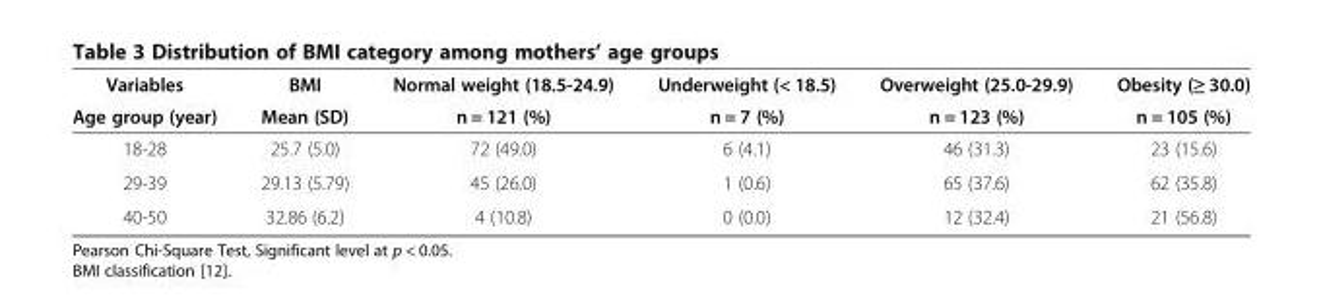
<table><thead><tr><td rowspan="2">Variables Age group (year)</td><td rowspan="2">BMI Mean (SD)</td><td rowspan="2">Normal weight (18.5-24.9) n = 121 (%)</td><td rowspan="2">Underweight (&lt; 18.5) n = 7 (%)</td><td rowspan="2">Overweight (25.0-29.9) n = 123 (%)</td><td rowspan="2">Obesity (≥ 30.0) n = 105 (%)</td></tr><tr></tr></thead><tbody><tr><td>18-28</td><td>25.7 (5.0)</td><td>72 (49.0)</td><td>6 (4.1)</td><td>46 (31.3)</td><td>23 (15.6)</td></tr><tr><td>29-39</td><td>29.13 (5.79)</td><td>45 (26.0)</td><td>1 (0.6)</td><td>65 (37.6)</td><td>62 (35.8)</td></tr><tr><td>40-50</td><td>32.86 (6.2)</td><td>4 (10.8)</td><td>0 (0.0)</td><td>12 (32.4)</td><td>21 (56.8)</td></tr></tbody></table>